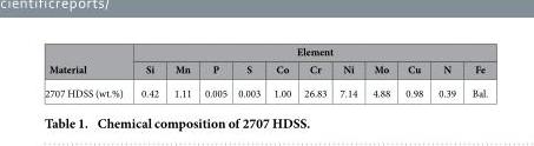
<table><thead><tr><td rowspan="2">Material</td><td colspan="11">Element</td></tr><tr><td>Si</td><td>Mn</td><td>P</td><td>S</td><td>Co</td><td>Cr</td><td>Ni</td><td>Mo</td><td>Cu</td><td>N</td><td>Fe</td></tr></thead><tbody><tr><td>2707 HDSS (wt.%)</td><td>0.42</td><td>1.11</td><td>0.005</td><td>0.003</td><td>1.00</td><td>26.83</td><td>7.14</td><td>4.88</td><td>0.98</td><td>0.39</td><td>Bal.</td></tr></tbody></table>